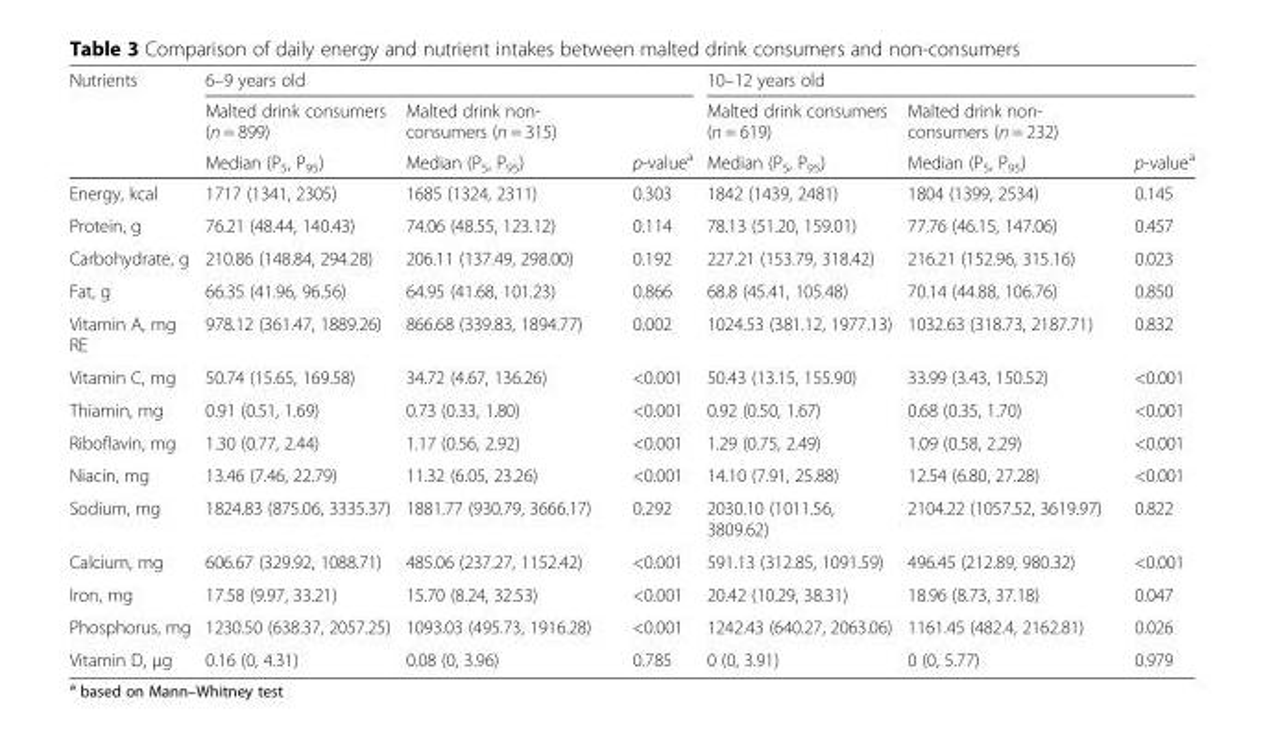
<table><thead><tr><td rowspan="3">Nutrients</td><td colspan="3">6–9 years old</td><td colspan="3">10–12 years old</td></tr><tr><td rowspan="2">Malted drink consumers (n = 899) Median (P<sub>5</sub>, P<sub>95</sub>)</td><td rowspan="2">Malted drink non- consumers (n = 315) Median (P<sub>5</sub>, P<sub>95</sub>)</td><td rowspan="2">p-value<sup>a</sup></td><td rowspan="2">Malted drink consumers (n = 619) Median (P<sub>5</sub>, P<sub>95</sub>)</td><td rowspan="2">Malted drink non- consumers (n = 232) Median (P<sub>5</sub>, P<sub>95</sub>)</td><td rowspan="2">p-value<sup>a</sup></td></tr><tr></tr></thead><tbody><tr><td>Energy, kcal</td><td>1717 (1341, 2305)</td><td>1685 (1324, 2311)</td><td>0.303</td><td>1842 (1439, 2481)</td><td>1804 (1399, 2534)</td><td>0.145</td></tr><tr><td>Protein, g</td><td>76.21 (48.44, 140.43)</td><td>74.06 (48.55, 123.12)</td><td>0.114</td><td>78.13 (51.20, 159.01)</td><td>77.76 (46.15, 147.06)</td><td>0.457</td></tr><tr><td>Carbohydrate, g</td><td>210.86 (148.84, 294.28)</td><td>206.11 (137.49, 298.00)</td><td>0.192</td><td>227.21 (153.79, 318.42)</td><td>216.21 (152.96, 315.16)</td><td>0.023</td></tr><tr><td>Fat, g</td><td>66.35 (41.96, 96.56)</td><td>64.95 (41.68, 101.23)</td><td>0.866</td><td>68.8 (45.41, 105.48)</td><td>70.14 (44.88, 106.76)</td><td>0.850</td></tr><tr><td>Vitamin A, mg RE</td><td>978.12 (361.47, 1889.26)</td><td>866.68 (339.83, 1894.77)</td><td>0.002</td><td>1024.53 (381.12, 1977.13)</td><td>1032.63 (318.73, 2187.71)</td><td>0.832</td></tr><tr><td>Vitamin C, mg</td><td>50.74 (15.65, 169.58)</td><td>34.72 (4.67, 136.26)</td><td>&lt;0.001</td><td>50.43 (13.15, 155.90)</td><td>33.99 (3.43, 150.52)</td><td>&lt;0.001</td></tr><tr><td>Thiamin, mg</td><td>0.91 (0.51, 1.69)</td><td>0.73 (0.33, 1.80)</td><td>&lt;0.001</td><td>0.92 (0.50, 1.67)</td><td>0.68 (0.35, 1.70)</td><td>&lt;0.001</td></tr><tr><td>Riboflavin, mg</td><td>1.30 (0.77, 2.44)</td><td>1.17 (0.56, 2.92)</td><td>&lt;0.001</td><td>1.29 (0.75, 2.49)</td><td>1.09 (0.58, 2.29)</td><td>&lt;0.001</td></tr><tr><td>Niacin, mg</td><td>13.46 (7.46, 22.79)</td><td>11.32 (6.05, 23.26)</td><td>&lt;0.001</td><td>14.10 (7.91, 25.88)</td><td>12.54 (6.80, 27.28)</td><td>&lt;0.001</td></tr><tr><td>Sodium, mg</td><td>1824.83 (875.06, 3335.37)</td><td>1881.77 (930.79, 3666.17)</td><td>0.292</td><td>2030.10 (1011.56, 3809.62)</td><td>2104.22 (1057.52, 3619.97)</td><td>0.822</td></tr><tr><td>Calcium, mg</td><td>606.67 (329.92, 1088.71)</td><td>485.06 (237.27, 1152.42)</td><td>&lt;0.001</td><td>591.13 (312.85, 1091.59)</td><td>496.45 (212.89, 980.32)</td><td>&lt;0.001</td></tr><tr><td>Iron, mg</td><td>17.58 (9.97, 33.21)</td><td>15.70 (8.24, 32.53)</td><td>&lt;0.001</td><td>20.42 (10.29, 38.31)</td><td>18.96 (8.73, 37.18)</td><td>0.047</td></tr><tr><td>Phosphorus, mg</td><td>1230.50 (638.37, 2057.25)</td><td>1093.03 (495.73, 1916.28)</td><td>&lt;0.001</td><td>1242.43 (640.27, 2063.06)</td><td>1161.45 (482.4, 2162.81)</td><td>0.026</td></tr><tr><td>Vitamin D, μg</td><td>0.16 (0, 4.31)</td><td>0.08 (0, 3.96)</td><td>0.785</td><td>0 (0, 3.91)</td><td>0 (0, 5.77)</td><td>0.979</td></tr></tbody></table>